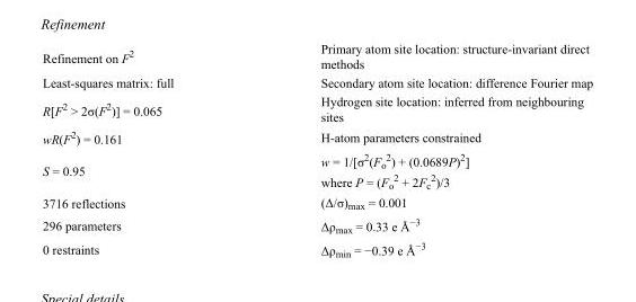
<table><tbody><tr><td>Refinement on F<sup>2</sup></td><td>Primary atom site location: structure-invariant direct methods</td></tr><tr><td>Least-squares matrix: full</td><td>Secondary atom site location: difference Fourier map</td></tr><tr><td>R[F<sup>2</sup> &gt; 2σ(F<sup>2</sup>)] = 0.065</td><td>Hydrogen site location: inferred from neighbouring sites</td></tr><tr><td>wR(F<sup>2</sup>) = 0.161</td><td>H-atom parameters constrained</td></tr><tr><td>S = 0.95</td><td>w = 1/[σ<sup>2</sup>(F<sub>o</sub> <sup>2</sup>) + (0.0689P)<sup>2</sup>] where P = (F<sub>o</sub> <sup>2</sup> + 2F<sub>c</sub> <sup>2</sup>)/3</td></tr><tr><td>3716 reflections</td><td>(Δ/σ)<sub>max</sub> = 0.001</td></tr><tr><td>296 parameters</td><td>Δρ<sub>max</sub> = 0.33 e Å<sup>−3</sup></td></tr><tr><td>0 restraints</td><td>Δρ<sub>min</sub> = −0.39 e Å<sup>−3</sup></td></tr></tbody></table>